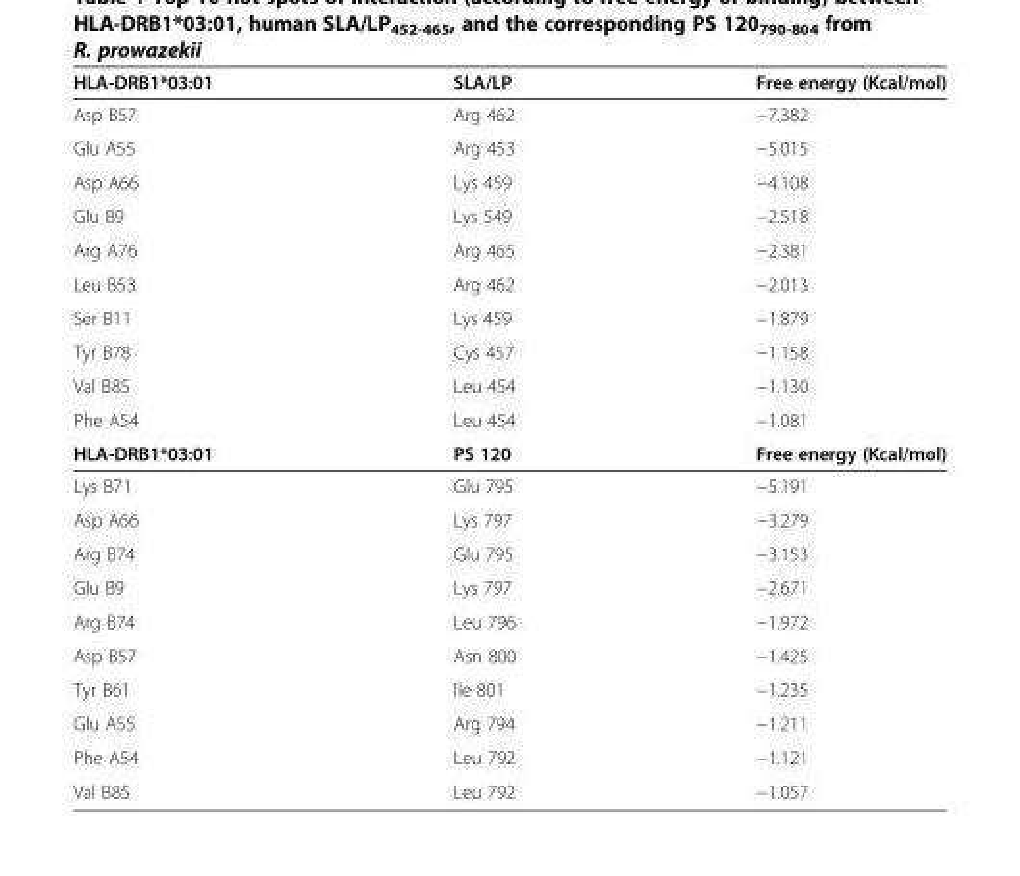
<table><thead><tr><td>HLA-DRB1*03:01</td><td>SLA/LP</td><td>Free energy (Kcal/mol)</td></tr></thead><tbody><tr><td>Asp B57</td><td>Arg 462</td><td>−7.382</td></tr><tr><td>Glu A55</td><td>Arg 453</td><td>−5.015</td></tr><tr><td>Asp A66</td><td>Lys 459</td><td>−4.108</td></tr><tr><td>Glu B9</td><td>Lys 549</td><td>−2.518</td></tr><tr><td>Arg A76</td><td>Arg 465</td><td>−2.381</td></tr><tr><td>Leu B53</td><td>Arg 462</td><td>−2.013</td></tr><tr><td>Ser B11</td><td>Lys 459</td><td>−1.879</td></tr><tr><td>Tyr B78</td><td>Cys 457</td><td>−1.158</td></tr><tr><td>Val B85</td><td>Leu 454</td><td>−1.130</td></tr><tr><td>Phe A54</td><td>Leu 454</td><td>−1.081</td></tr><tr><td>HLA-DRB1*03:01</td><td>PS 120</td><td>Free energy (Kcal/mol)</td></tr><tr><td>Lys B71</td><td>Glu 795</td><td>−5.191</td></tr><tr><td>Asp A66</td><td>Lys 797</td><td>−3.279</td></tr><tr><td>Arg B74</td><td>Glu 795</td><td>−3.153</td></tr><tr><td>Glu B9</td><td>Lys 797</td><td>−2.671</td></tr><tr><td>Arg B74</td><td>Leu 796</td><td>−1.972</td></tr><tr><td>Asp B57</td><td>Asn 800</td><td>−1.425</td></tr><tr><td>Tyr B61</td><td>Ile 801</td><td>−1.235</td></tr><tr><td>Glu A55</td><td>Arg 794</td><td>−1.211</td></tr><tr><td>Phe A54</td><td>Leu 792</td><td>−1.121</td></tr><tr><td>Val B85</td><td>Leu 792</td><td>−1.057</td></tr></tbody></table>